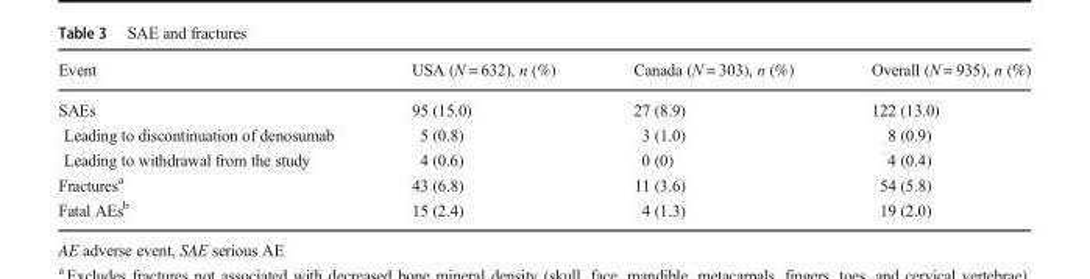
<table><thead><tr><td>Event</td><td>USA (N = 632), n (%)</td><td>Canada (N = 303), n (%)</td><td>Overall (N = 935), n (%)</td></tr></thead><tbody><tr><td>SAEs</td><td>95 (15.0)</td><td>27 (8.9)</td><td>122 (13.0)</td></tr><tr><td>Leading to discontinuation of denosumab</td><td>5 (0.8)</td><td>3 (1.0)</td><td>8 (0.9)</td></tr><tr><td>Leading to withdrawal from the study</td><td>4 (0.6)</td><td>0 (0)</td><td>4 (0.4)</td></tr><tr><td>Fractures<sup>a</sup></td><td>43 (6.8)</td><td>11 (3.6)</td><td>54 (5.8)</td></tr><tr><td>Fatal AEs<sup>b</sup></td><td>15 (2.4)</td><td>4 (1.3)</td><td>19 (2.0)</td></tr></tbody></table>